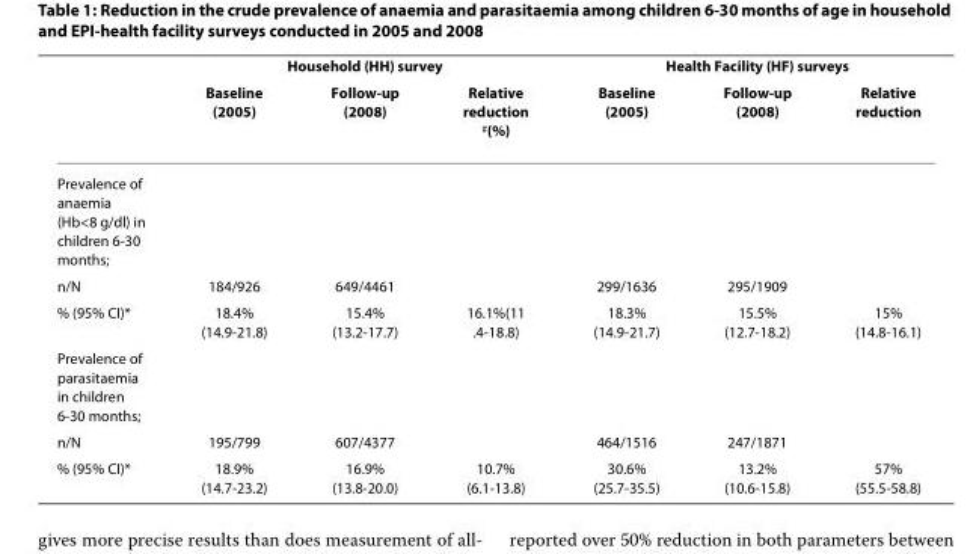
<table><thead><tr><td rowspan="2"></td><td colspan="3">Household (HH) survey</td><td colspan="3">Health Facility (HF) surveys</td></tr><tr><td>Baseline (2005)</td><td>Follow-up (2008)</td><td>Relative reduction <sup>#</sup>(%)</td><td>Baseline (2005)</td><td>Follow-up (2008)</td><td>Relative reduction</td></tr></thead><tbody><tr><td colspan="7">Prevalence of anaemia (Hb&lt;8 g/dl) in children 6-30 months;</td></tr><tr><td>n/N</td><td>184/926</td><td>649/4461</td><td></td><td>299/1636</td><td>295/1909</td><td></td></tr><tr><td>% (95% CI)*</td><td>18.4% (14.9-21.8)</td><td>15.4% (13.2-17.7)</td><td>16.1%(11 .4-18.8)</td><td>18.3% (14.9-21.7)</td><td>15.5% (12.7-18.2)</td><td>15% (14.8-16.1)</td></tr><tr><td colspan="7">Prevalence of parasitaemia in children 6-30 months;</td></tr><tr><td>n/N</td><td>195/799</td><td>607/4377</td><td></td><td>464/1516</td><td>247/1871</td><td></td></tr><tr><td>% (95% CI)*</td><td>18.9% (14.7-23.2)</td><td>16.9% (13.8-20.0)</td><td>10.7% (6.1-13.8)</td><td>30.6% (25.7-35.5)</td><td>13.2% (10.6-15.8)</td><td>57% (55.5-58.8)</td></tr></tbody></table>